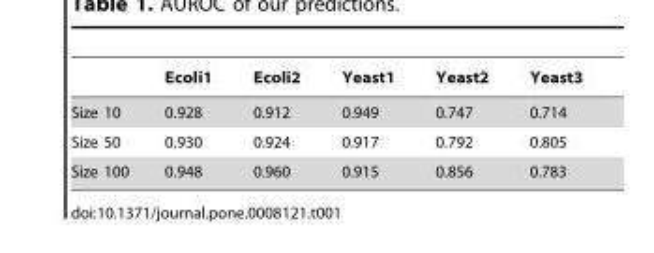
<table><thead><tr><td></td><td>Ecoli1</td><td>Ecoli2</td><td>Yeast1</td><td>Yeast2</td><td>Yeast3</td></tr></thead><tbody><tr><td>Size 10</td><td>0.928</td><td>0.912</td><td>0.949</td><td>0.747</td><td>0.714</td></tr><tr><td>Size 50</td><td>0.930</td><td>0.924</td><td>0.917</td><td>0.792</td><td>0.805</td></tr><tr><td>Size 100</td><td>0.948</td><td>0.960</td><td>0.915</td><td>0.856</td><td>0.783</td></tr></tbody></table>